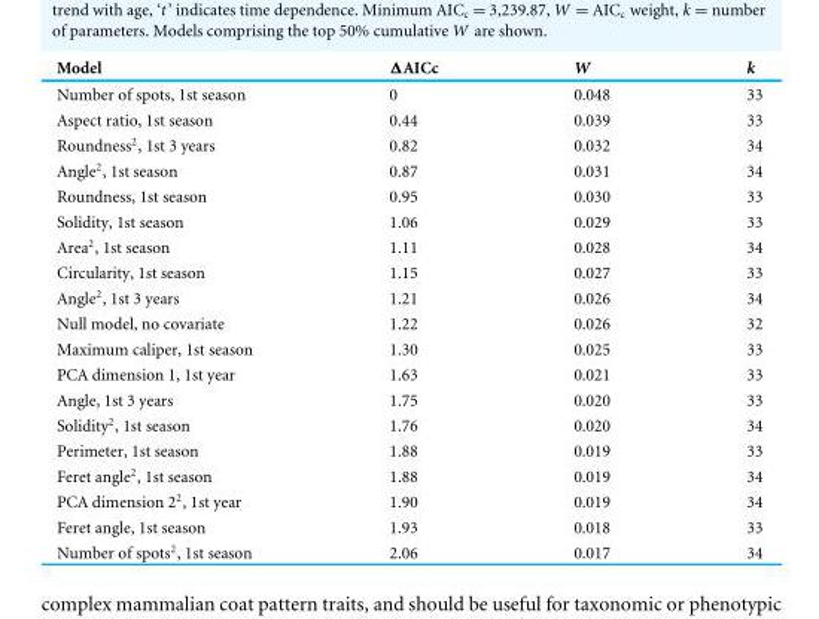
<table><thead><tr><td>Model</td><td>ΔAICc</td><td>W</td><td>k</td></tr></thead><tbody><tr><td>Number of spots, 1st season</td><td>0</td><td>0.048</td><td>33</td></tr><tr><td>Aspect ratio, 1st season</td><td>0.44</td><td>0.039</td><td>33</td></tr><tr><td>Roundness<sup>2</sup>, 1st 3 years</td><td>0.82</td><td>0.032</td><td>34</td></tr><tr><td>Angle<sup>2</sup>, 1st season</td><td>0.87</td><td>0.031</td><td>34</td></tr><tr><td>Roundness, 1st season</td><td>0.95</td><td>0.030</td><td>33</td></tr><tr><td>Solidity, 1st season</td><td>1.06</td><td>0.029</td><td>33</td></tr><tr><td>Area<sup>2</sup>, 1st season</td><td>1.11</td><td>0.028</td><td>34</td></tr><tr><td>Circularity, 1st season</td><td>1.15</td><td>0.027</td><td>33</td></tr><tr><td>Angle<sup>2</sup>, 1st 3 years</td><td>1.21</td><td>0.026</td><td>34</td></tr><tr><td>Null model, no covariate</td><td>1.22</td><td>0.026</td><td>32</td></tr><tr><td>Maximum caliper, 1st season</td><td>1.30</td><td>0.025</td><td>33</td></tr><tr><td>PCA dimension 1, 1st year</td><td>1.63</td><td>0.021</td><td>33</td></tr><tr><td>Angle, 1st 3 years</td><td>1.75</td><td>0.020</td><td>33</td></tr><tr><td>Solidity<sup>2</sup>, 1st season</td><td>1.76</td><td>0.020</td><td>34</td></tr><tr><td>Perimeter, 1st season</td><td>1.88</td><td>0.019</td><td>33</td></tr><tr><td>Feret angle<sup>2</sup>, 1st season</td><td>1.88</td><td>0.019</td><td>34</td></tr><tr><td>PCA dimension 2<sup>2</sup>, 1st year</td><td>1.90</td><td>0.019</td><td>34</td></tr><tr><td>Feret angle, 1st season</td><td>1.93</td><td>0.018</td><td>33</td></tr><tr><td>Number of spots<sup>2</sup>, 1st season</td><td>2.06</td><td>0.017</td><td>34</td></tr></tbody></table>